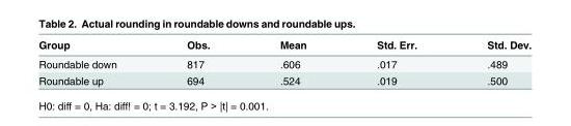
<table><thead><tr><td>Group</td><td>Obs.</td><td>Mean</td><td>Std. Err.</td><td>Std. Dev.</td></tr></thead><tbody><tr><td>Roundable down</td><td>817</td><td>.606</td><td>.017</td><td>.489</td></tr><tr><td>Roundable up</td><td>694</td><td>.524</td><td>.019</td><td>.500</td></tr></tbody></table>